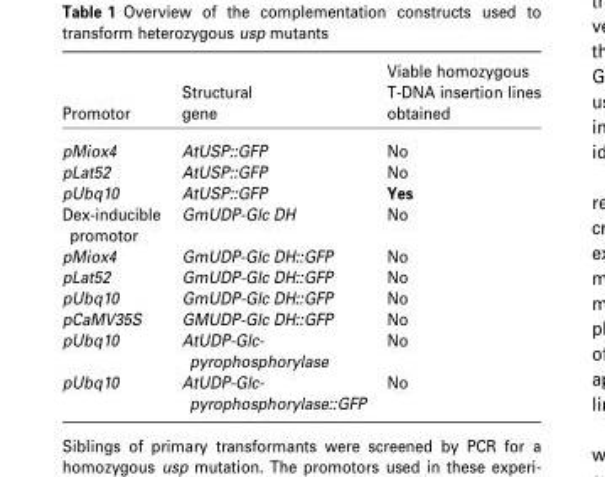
<table><thead><tr><td>Promotor</td><td>Structural gene</td><td>Viable homozygous T-DNA insertion lines obtained</td></tr></thead><tbody><tr><td>pMiox4</td><td>AtUSP::GFP</td><td>No</td></tr><tr><td>pLat52</td><td>AtUSP::GFP</td><td>No</td></tr><tr><td>pUbq10</td><td>AtUSP::GFP</td><td>Yes</td></tr><tr><td>Dex-inducible promotor</td><td>GmUDP-Glc DH</td><td>No</td></tr><tr><td>pMiox4</td><td>GmUDP-Glc DH::GFP</td><td>No</td></tr><tr><td>pLat52</td><td>GmUDP-Glc DH::GFP</td><td>No</td></tr><tr><td>pUbq10</td><td>GmUDP-Glc DH::GFP</td><td>No</td></tr><tr><td>pCaMV35S</td><td>GMUDP-Glc DH::GFP</td><td>No</td></tr><tr><td>pUbq10</td><td>AtUDP-Glc- pyrophosphorylase</td><td>No</td></tr><tr><td>pUbq10</td><td>AtUDP-Glc- pyrophosphorylase::GFP</td><td>No</td></tr></tbody></table>